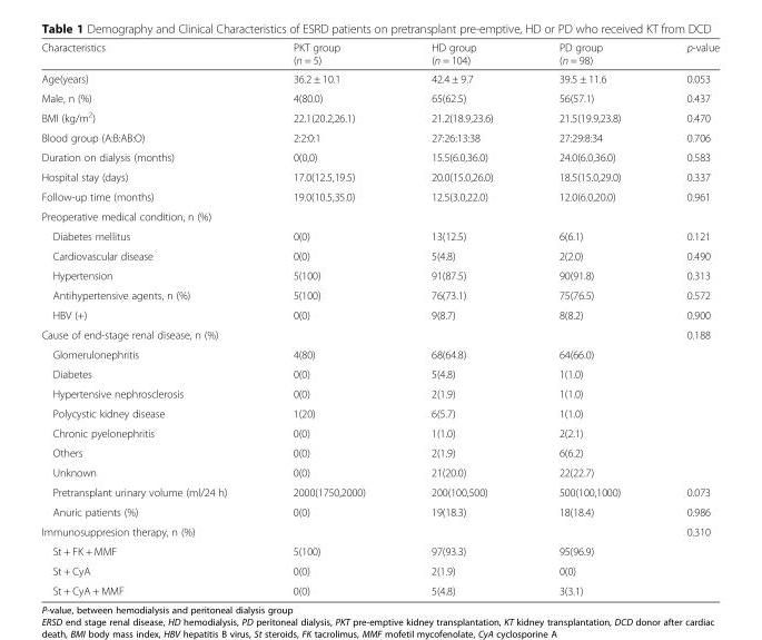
<table><thead><tr><td>Characteristics</td><td>PKT group (n = 5)</td><td>HD group (n = 104)</td><td>PD group (n = 98)</td><td>p-value</td></tr></thead><tbody><tr><td>Age(years)</td><td>36.2 ± 10.1</td><td>42.4 ± 9.7</td><td>39.5 ± 11.6</td><td>0.053</td></tr><tr><td>Male, n (%)</td><td>4(80.0)</td><td>65(62.5)</td><td>56(57.1)</td><td>0.437</td></tr><tr><td>BMI (kg/m<sup>2</sup>)</td><td>22.1(20.2,26.1)</td><td>21.2(18.9,23.6)</td><td>21.5(19.9,23.8)</td><td>0.470</td></tr><tr><td>Blood group (A:B:AB:O)</td><td>2:2:0:1</td><td>27:26:13:38</td><td>27:29:8:34</td><td>0.706</td></tr><tr><td>Duration on dialysis (months)</td><td>0(0,0)</td><td>15.5(6.0,36.0)</td><td>24.0(6.0,36.0)</td><td>0.583</td></tr><tr><td>Hospital stay (days)</td><td>17.0(12.5,19.5)</td><td>20.0(15.0,26.0)</td><td>18.5(15.0,29.0)</td><td>0.337</td></tr><tr><td>Follow-up time (months)</td><td>19.0(10.5,35.0)</td><td>12.5(3.0,22.0)</td><td>12.0(6.0,20.0)</td><td>0.961</td></tr><tr><td colspan="5">Preoperative medical condition, n (%)</td></tr><tr><td>Diabetes mellitus</td><td>0(0)</td><td>13(12.5)</td><td>6(6.1)</td><td>0.121</td></tr><tr><td>Cardiovascular disease</td><td>0(0)</td><td>5(4.8)</td><td>2(2.0)</td><td>0.490</td></tr><tr><td>Hypertension</td><td>5(100)</td><td>91(87.5)</td><td>90(91.8)</td><td>0.313</td></tr><tr><td>Antihypertensive agents, n (%)</td><td>5(100)</td><td>76(73.1)</td><td>75(76.5)</td><td>0.572</td></tr><tr><td>HBV (+)</td><td>0(0)</td><td>9(8.7)</td><td>8(8.2)</td><td>0.900</td></tr><tr><td>Cause of end-stage renal disease, n (%)</td><td></td><td></td><td></td><td>0.188</td></tr><tr><td>Glomerulonephritis</td><td>4(80)</td><td>68(64.8)</td><td>64(66.0)</td><td></td></tr><tr><td>Diabetes</td><td>0(0)</td><td>5(4.8)</td><td>1(1.0)</td><td></td></tr><tr><td>Hypertensive nephrosclerosis</td><td>0(0)</td><td>2(1.9)</td><td>1(1.0)</td><td></td></tr><tr><td>Polycystic kidney disease</td><td>1(20)</td><td>6(5.7)</td><td>1(1.0)</td><td></td></tr><tr><td>Chronic pyelonephritis</td><td>0(0)</td><td>1(1.0)</td><td>2(2.1)</td><td></td></tr><tr><td>Others</td><td>0(0)</td><td>2(1.9)</td><td>6(6.2)</td><td></td></tr><tr><td>Unknown</td><td>0(0)</td><td>21(20.0)</td><td>22(22.7)</td><td></td></tr><tr><td>Pretransplant urinary volume (ml/24 h)</td><td>2000(1750,2000)</td><td>200(100,500)</td><td>500(100,1000)</td><td>0.073</td></tr><tr><td>Anuric patients (%)</td><td>0(0)</td><td>19(18.3)</td><td>18(18.4)</td><td>0.986</td></tr><tr><td>Immunosuppresion therapy, n (%)</td><td></td><td></td><td></td><td>0.310</td></tr><tr><td>St + FK + MMF</td><td>5(100)</td><td>97(93.3)</td><td>95(96.9)</td><td></td></tr><tr><td>St + CyA</td><td>0(0)</td><td>2(1.9)</td><td>0(0)</td><td></td></tr><tr><td>St + CyA + MMF</td><td>0(0)</td><td>5(4.8)</td><td>3(3.1)</td><td></td></tr></tbody></table>